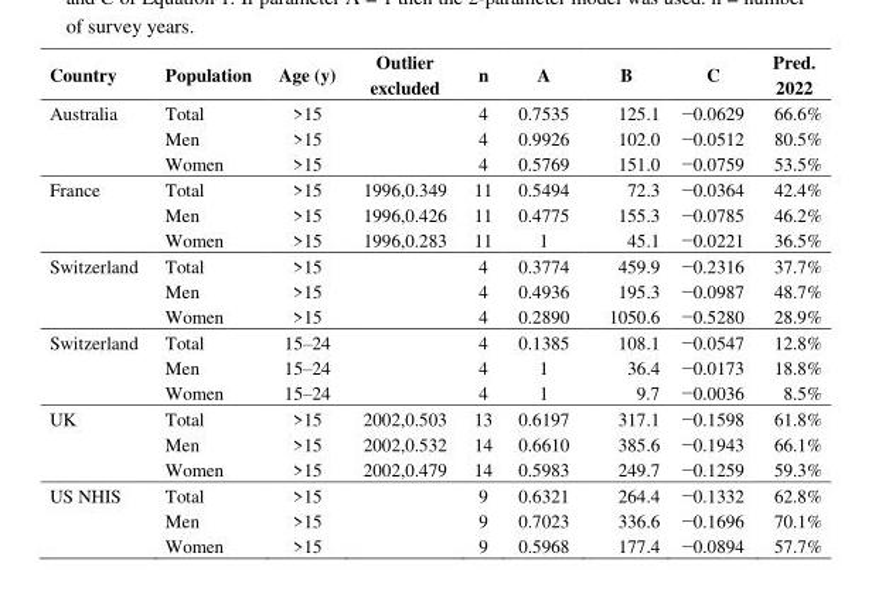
<table><thead><tr><td>Country</td><td>Population</td><td>Age (y)</td><td>Outlier excluded</td><td>n</td><td>A</td><td>B</td><td>C</td><td>Pred. 2022</td></tr></thead><tbody><tr><td rowspan="3">Australia</td><td>Total</td><td>&gt;15</td><td></td><td>4</td><td>0.7535</td><td>125.1</td><td>−0.0629</td><td>66.6%</td></tr><tr><td>Men</td><td>&gt;15</td><td></td><td>4</td><td>0.9926</td><td>102.0</td><td>−0.0512</td><td>80.5%</td></tr><tr><td>Women</td><td>&gt;15</td><td></td><td>4</td><td>0.5769</td><td>151.0</td><td>−0.0759</td><td>53.5%</td></tr><tr><td rowspan="3">France</td><td>Total</td><td>&gt;15</td><td>1996,0.349</td><td>11</td><td>0.5494</td><td>72.3</td><td>−0.0364</td><td>42.4%</td></tr><tr><td>Men</td><td>&gt;15</td><td>1996,0.426</td><td>11</td><td>0.4775</td><td>155.3</td><td>−0.0785</td><td>46.2%</td></tr><tr><td>Women</td><td>&gt;15</td><td>1996,0.283</td><td>11</td><td>1</td><td>45.1</td><td>−0.0221</td><td>36.5%</td></tr><tr><td rowspan="3">Switzerland</td><td>Total</td><td>&gt;15</td><td></td><td>4</td><td>0.3774</td><td>459.9</td><td>−0.2316</td><td>37.7%</td></tr><tr><td>Men</td><td>&gt;15</td><td></td><td>4</td><td>0.4936</td><td>195.3</td><td>−0.0987</td><td>48.7%</td></tr><tr><td>Women</td><td>&gt;15</td><td></td><td>4</td><td>0.2890</td><td>1050.6</td><td>−0.5280</td><td>28.9%</td></tr><tr><td rowspan="3">Switzerland</td><td>Total</td><td>15–24</td><td></td><td>4</td><td>0.1385</td><td>108.1</td><td>−0.0547</td><td>12.8%</td></tr><tr><td>Men</td><td>15–24</td><td></td><td>4</td><td>1</td><td>36.4</td><td>−0.0173</td><td>18.8%</td></tr><tr><td>Women</td><td>15–24</td><td></td><td>4</td><td>1</td><td>9.7</td><td>−0.0036</td><td>8.5%</td></tr><tr><td rowspan="3">UK</td><td>Total</td><td>&gt;15</td><td>2002,0.503</td><td>13</td><td>0.6197</td><td>317.1</td><td>−0.1598</td><td>61.8%</td></tr><tr><td>Men</td><td>&gt;15</td><td>2002,0.532</td><td>14</td><td>0.6610</td><td>385.6</td><td>−0.1943</td><td>66.1%</td></tr><tr><td>Women</td><td>&gt;15</td><td>2002,0.479</td><td>14</td><td>0.5983</td><td>249.7</td><td>−0.1259</td><td>59.3%</td></tr><tr><td rowspan="3">US NHIS</td><td>Total</td><td>&gt;15</td><td></td><td>9</td><td>0.6321</td><td>264.4</td><td>−0.1332</td><td>62.8%</td></tr><tr><td>Men</td><td>&gt;15</td><td></td><td>9</td><td>0.7023</td><td>336.6</td><td>−0.1696</td><td>70.1%</td></tr><tr><td>Women</td><td>&gt;15</td><td></td><td>9</td><td>0.5968</td><td>177.4</td><td>−0.0894</td><td>57.7%</td></tr></tbody></table>